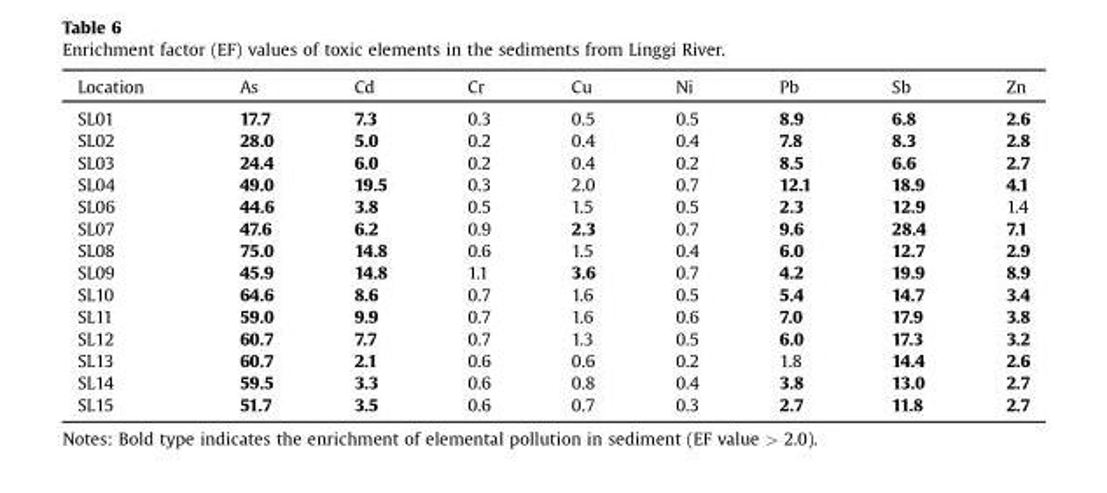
<table><thead><tr><td>Location</td><td>As</td><td>Cd</td><td>Cr</td><td>Cu</td><td>Ni</td><td>Pb</td><td>Sb</td><td>Zn</td></tr></thead><tbody><tr><td>SL01</td><td>17.7</td><td>7.3</td><td>0.3</td><td>0.5</td><td>0.5</td><td>8.9</td><td>6.8</td><td>2.6</td></tr><tr><td>SL02</td><td>28.0</td><td>5.0</td><td>0.2</td><td>0.4</td><td>0.4</td><td>7.8</td><td>8.3</td><td>2.8</td></tr><tr><td>SL03</td><td>24.4</td><td>6.0</td><td>0.2</td><td>0.4</td><td>0.2</td><td>8.5</td><td>6.6</td><td>2.7</td></tr><tr><td>SL04</td><td>49.0</td><td>19.5</td><td>0.3</td><td>2.0</td><td>0.7</td><td>12.1</td><td>18.9</td><td>4.1</td></tr><tr><td>SL06</td><td>44.6</td><td>3.8</td><td>0.5</td><td>1.5</td><td>0.5</td><td>2.3</td><td>12.9</td><td>1.4</td></tr><tr><td>SL07</td><td>47.6</td><td>6.2</td><td>0.9</td><td>2.3</td><td>0.7</td><td>9.6</td><td>28.4</td><td>7.1</td></tr><tr><td>SL08</td><td>75.0</td><td>14.8</td><td>0.6</td><td>1.5</td><td>0.4</td><td>6.0</td><td>12.7</td><td>2.9</td></tr><tr><td>SL09</td><td>45.9</td><td>14.8</td><td>1.1</td><td>3.6</td><td>0.7</td><td>4.2</td><td>19.9</td><td>8.9</td></tr><tr><td>SL10</td><td>64.6</td><td>8.6</td><td>0.7</td><td>1.6</td><td>0.5</td><td>5.4</td><td>14.7</td><td>3.4</td></tr><tr><td>SL11</td><td>59.0</td><td>9.9</td><td>0.7</td><td>1.6</td><td>0.6</td><td>7.0</td><td>17.9</td><td>3.8</td></tr><tr><td>SL12</td><td>60.7</td><td>7.7</td><td>0.7</td><td>1.3</td><td>0.5</td><td>6.0</td><td>17.3</td><td>3.2</td></tr><tr><td>SL13</td><td>60.7</td><td>2.1</td><td>0.6</td><td>0.6</td><td>0.2</td><td>1.8</td><td>14.4</td><td>2.6</td></tr><tr><td>SL14</td><td>59.5</td><td>3.3</td><td>0.6</td><td>0.8</td><td>0.4</td><td>3.8</td><td>13.0</td><td>2.7</td></tr><tr><td>SL15</td><td>51.7</td><td>3.5</td><td>0.6</td><td>0.7</td><td>0.3</td><td>2.7</td><td>11.8</td><td>2.7</td></tr></tbody></table>